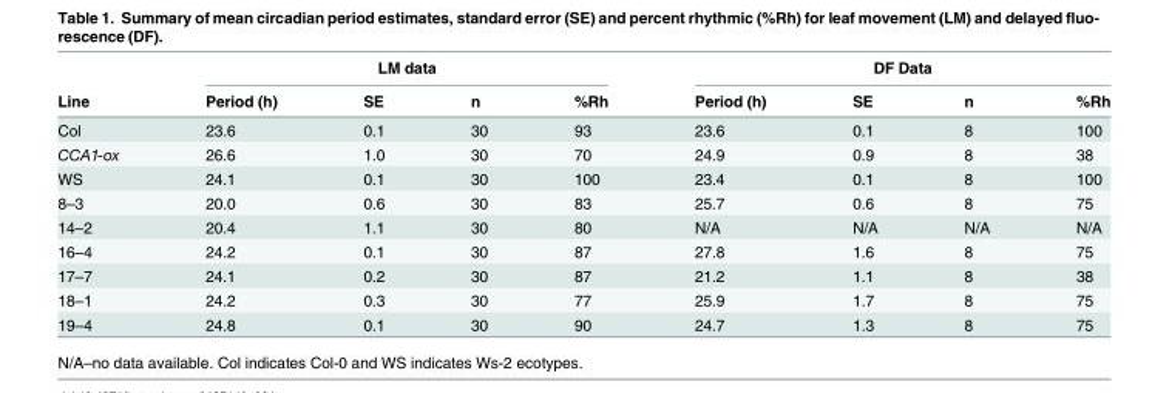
<table><thead><tr><td rowspan="2">Line</td><td colspan="4">LM data</td><td colspan="4">DF Data</td></tr><tr><td>Period (h)</td><td>SE</td><td>n</td><td>%Rh</td><td>Period (h)</td><td>SE</td><td>n</td><td>%Rh</td></tr></thead><tbody><tr><td>Col</td><td>23.6</td><td>0.1</td><td>30</td><td>93</td><td>23.6</td><td>0.1</td><td>8</td><td>100</td></tr><tr><td>CCA1-ox</td><td>26.6</td><td>1.0</td><td>30</td><td>70</td><td>24.9</td><td>0.9</td><td>8</td><td>38</td></tr><tr><td>WS</td><td>24.1</td><td>0.1</td><td>30</td><td>100</td><td>23.4</td><td>0.1</td><td>8</td><td>100</td></tr><tr><td>8–3</td><td>20.0</td><td>0.6</td><td>30</td><td>83</td><td>25.7</td><td>0.6</td><td>8</td><td>75</td></tr><tr><td>14–2</td><td>20.4</td><td>1.1</td><td>30</td><td>80</td><td>N/A</td><td>N/A</td><td>N/A</td><td>N/A</td></tr><tr><td>16–4</td><td>24.2</td><td>0.1</td><td>30</td><td>87</td><td>27.8</td><td>1.6</td><td>8</td><td>75</td></tr><tr><td>17–7</td><td>24.1</td><td>0.2</td><td>30</td><td>87</td><td>21.2</td><td>1.1</td><td>8</td><td>38</td></tr><tr><td>18–1</td><td>24.2</td><td>0.3</td><td>30</td><td>77</td><td>25.9</td><td>1.7</td><td>8</td><td>75</td></tr><tr><td>19–4</td><td>24.8</td><td>0.1</td><td>30</td><td>90</td><td>24.7</td><td>1.3</td><td>8</td><td>75</td></tr></tbody></table>